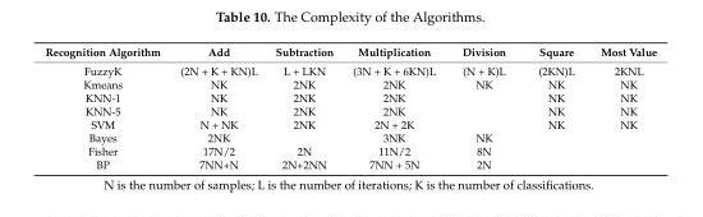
<table><thead><tr><td>Recognition Algorithm</td><td>Add</td><td>Subtraction</td><td>Multiplication</td><td>Division</td><td>Square</td><td>Most Value</td></tr></thead><tbody><tr><td>FuzzyK</td><td>(2N + K + KN)L</td><td>L + LKN</td><td>(3N + K + 6KN)L</td><td>(N + K)L</td><td>(2KN)L</td><td>2KNL</td></tr><tr><td>Kmeans</td><td>NK</td><td>2NK</td><td>2NK</td><td>NK</td><td>NK</td><td>NK</td></tr><tr><td>KNN-1</td><td>NK</td><td>2NK</td><td>2NK</td><td></td><td>NK</td><td>NK</td></tr><tr><td>KNN-5</td><td>NK</td><td>2NK</td><td>2NK</td><td></td><td>NK</td><td>NK</td></tr><tr><td>SVM</td><td>N + NK</td><td>2NK</td><td>2N + 2K</td><td></td><td>NK</td><td>NK</td></tr><tr><td>Bayes</td><td>2NK</td><td></td><td>3NK</td><td>NK</td><td></td><td></td></tr><tr><td>Fisher</td><td>17N/2</td><td>2N</td><td>11N/2</td><td>8N</td><td></td><td></td></tr><tr><td>BP</td><td>7NN+N</td><td>2N+2NN</td><td>7NN + 5N</td><td>2N</td><td></td><td></td></tr></tbody></table>